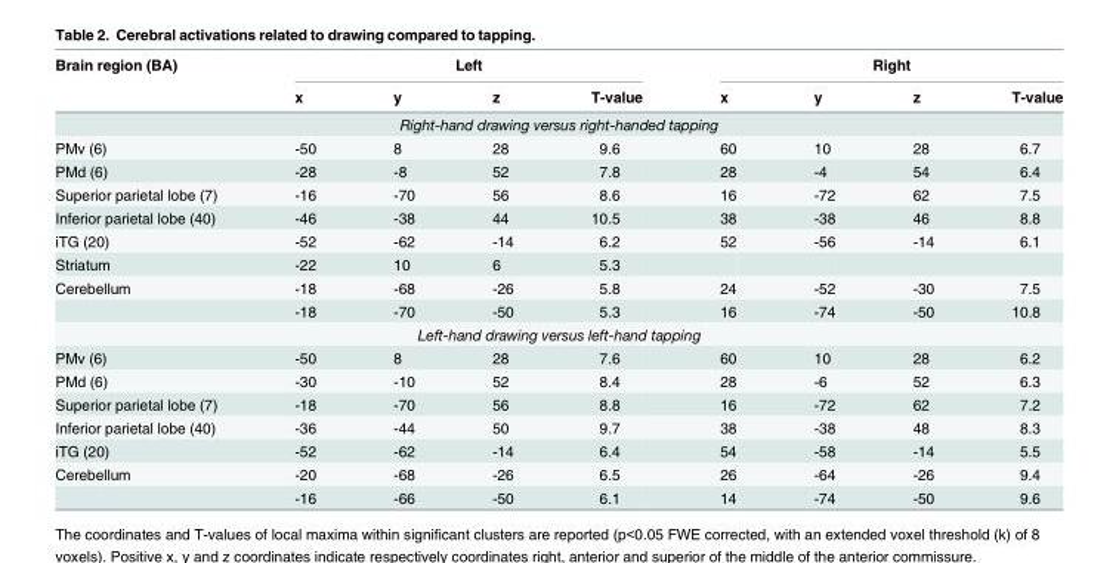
<table><thead><tr><td rowspan="2">Brain region (BA)</td><td colspan="4">Left</td><td colspan="4">Right</td></tr><tr><td>x</td><td>y</td><td>z</td><td>T-value</td><td>x</td><td>y</td><td>z</td><td>T-value</td></tr></thead><tbody><tr><td colspan="9">Right-hand drawing versus right-handed tapping</td></tr><tr><td>PMv (6)</td><td>-50</td><td>8</td><td>28</td><td>9.6</td><td>60</td><td>10</td><td>28</td><td>6.7</td></tr><tr><td>PMd (6)</td><td>-28</td><td>-8</td><td>52</td><td>7.8</td><td>28</td><td>-4</td><td>54</td><td>6.4</td></tr><tr><td>Superior parietal lobe (7)</td><td>-16</td><td>-70</td><td>56</td><td>8.6</td><td>16</td><td>-72</td><td>62</td><td>7.5</td></tr><tr><td>Inferior parietal lobe (40)</td><td>-46</td><td>-38</td><td>44</td><td>10.5</td><td>38</td><td>-38</td><td>46</td><td>8.8</td></tr><tr><td>iTG (20)</td><td>-52</td><td>-62</td><td>-14</td><td>6.2</td><td>52</td><td>-56</td><td>-14</td><td>6.1</td></tr><tr><td>Striatum</td><td>-22</td><td>10</td><td>6</td><td>5.3</td><td></td><td></td><td></td><td></td></tr><tr><td rowspan="2">Cerebellum</td><td>-18</td><td>-68</td><td>-26</td><td>5.8</td><td>24</td><td>-52</td><td>-30</td><td>7.5</td></tr><tr><td>-18</td><td>-70</td><td>-50</td><td>5.3</td><td>16</td><td>-74</td><td>-50</td><td>10.8</td></tr><tr><td colspan="9">Left-hand drawing versus left-hand tapping</td></tr><tr><td>PMv (6)</td><td>-50</td><td>8</td><td>28</td><td>7.6</td><td>60</td><td>10</td><td>28</td><td>6.2</td></tr><tr><td>PMd (6)</td><td>-30</td><td>-10</td><td>52</td><td>8.4</td><td>28</td><td>-6</td><td>52</td><td>6.3</td></tr><tr><td>Superior parietal lobe (7)</td><td>-18</td><td>-70</td><td>56</td><td>8.8</td><td>16</td><td>-72</td><td>62</td><td>7.2</td></tr><tr><td>Inferior parietal lobe (40)</td><td>-36</td><td>-44</td><td>50</td><td>9.7</td><td>38</td><td>-38</td><td>48</td><td>8.3</td></tr><tr><td>iTG (20)</td><td>-52</td><td>-62</td><td>-14</td><td>6.4</td><td>54</td><td>-58</td><td>-14</td><td>5.5</td></tr><tr><td rowspan="2">Cerebellum</td><td>-20</td><td>-68</td><td>-26</td><td>6.5</td><td>26</td><td>-64</td><td>-26</td><td>9.4</td></tr><tr><td>-16</td><td>-66</td><td>-50</td><td>6.1</td><td>14</td><td>-74</td><td>-50</td><td>9.6</td></tr></tbody></table>